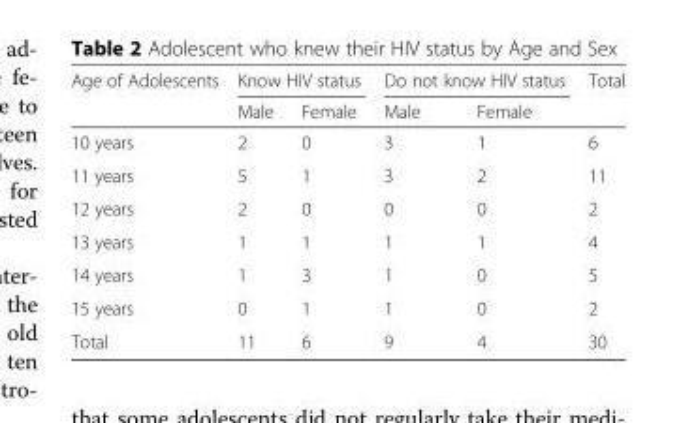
<table><thead><tr><td rowspan="2">Age of Adolescents</td><td colspan="2">Know HIV status</td><td colspan="2">Do not know HIV status</td><td rowspan="2">Total</td></tr><tr><td>Male</td><td>Female</td><td>Male</td><td>Female</td></tr></thead><tbody><tr><td>10 years</td><td>2</td><td>0</td><td>3</td><td>1</td><td>6</td></tr><tr><td>11 years</td><td>5</td><td>1</td><td>3</td><td>2</td><td>11</td></tr><tr><td>12 years</td><td>2</td><td>0</td><td>0</td><td>0</td><td>2</td></tr><tr><td>13 years</td><td>1</td><td>1</td><td>1</td><td>1</td><td>4</td></tr><tr><td>14 years</td><td>1</td><td>3</td><td>1</td><td>0</td><td>5</td></tr><tr><td>15 years</td><td>0</td><td>1</td><td>1</td><td>0</td><td>2</td></tr><tr><td>Total</td><td>11</td><td>6</td><td>9</td><td>4</td><td>30</td></tr></tbody></table>